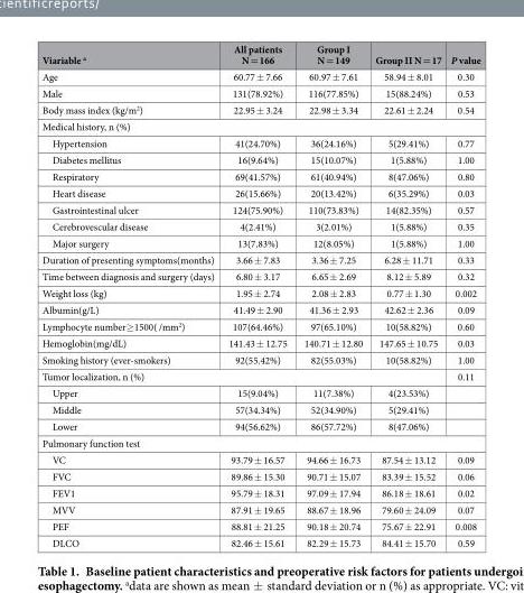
<table><thead><tr><td>Viariable a</td><td>All patients N = 166</td><td>Group I N = 149</td><td>Group II N = 17</td><td>P value</td></tr></thead><tbody><tr><td>Age</td><td>60.77 ± 7.66</td><td>60.97 ± 7.61</td><td>58.94 ± 8.01</td><td>0.30</td></tr><tr><td>Male</td><td>131(78.92%)</td><td>116(77.85%)</td><td>15(88.24%)</td><td>0.53</td></tr><tr><td>Body mass index (kg/m<sup>2</sup>)</td><td>22.95 ± 3.24</td><td>22.98 ± 3.34</td><td>22.61 ± 2.24</td><td>0.54</td></tr><tr><td colspan="5">Medical history, n (%)</td></tr><tr><td>Hypertension</td><td>41(24.70%)</td><td>36(24.16%)</td><td>5(29.41%)</td><td>0.77</td></tr><tr><td>Diabetes mellitus</td><td>16(9.64%)</td><td>15(10.07%)</td><td>1(5.88%)</td><td>1.00</td></tr><tr><td>Respiratory</td><td>69(41.57%)</td><td>61(40.94%)</td><td>8(47.06%)</td><td>0.80</td></tr><tr><td>Heart disease</td><td>26(15.66%)</td><td>20(13.42%)</td><td>6(35.29%)</td><td>0.03</td></tr><tr><td>Gastrointestinal ulcer</td><td>124(75.90%)</td><td>110(73.83%)</td><td>14(82.35%)</td><td>0.57</td></tr><tr><td>Cerebrovescular disease</td><td>4(2.41%)</td><td>3(2.01%)</td><td>1(5.88%)</td><td>0.35</td></tr><tr><td>Major surgery</td><td>13(7.83%)</td><td>12(8.05%)</td><td>1(5.88%)</td><td>1.00</td></tr><tr><td>Duration of presenting symptoms(months)</td><td>3.66 ± 7.83</td><td>3.36 ± 7.25</td><td>6.28 ± 11.71</td><td>0.33</td></tr><tr><td>Time between diagnosis and surgery (days)</td><td>6.80 ± 3.17</td><td>6.65 ± 2.69</td><td>8.12 ± 5.89</td><td>0.32</td></tr><tr><td>Weight loss (kg)</td><td>1.95 ± 2.74</td><td>2.08 ± 2.83</td><td>0.77 ± 1.30</td><td>0.002</td></tr><tr><td>Albumin(g/L)</td><td>41.49 ± 2.90</td><td>41.36 ± 2.93</td><td>42.62 ± 2.36</td><td>0.09</td></tr><tr><td>Lymphocyte number≥ 1500( /mm<sup>2</sup>)</td><td>107(64.46%)</td><td>97(65.10%)</td><td>10(58.82%)</td><td>0.60</td></tr><tr><td>Hemoglobin(mg/dL)</td><td>141.43 ± 12.75</td><td>140.71 ± 12.80</td><td>147.65 ± 10.75</td><td>0.03</td></tr><tr><td>Smoking history (ever-smokers)</td><td>92(55.42%)</td><td>82(55.03%)</td><td>10(58.82%)</td><td>1.00</td></tr><tr><td colspan="4">Tumor localization, n (%)</td><td>0.11</td></tr><tr><td>Upper</td><td>15(9.04%)</td><td>11(7.38%)</td><td>4(23.53%)</td><td></td></tr><tr><td>Middle</td><td>57(34.34%)</td><td>52(34.90%)</td><td>5(29.41%)</td><td></td></tr><tr><td>Lower</td><td>94(56.62%)</td><td>86(57.72%)</td><td>8(47.06%)</td><td></td></tr><tr><td colspan="5">Pulmonary function test</td></tr><tr><td>VC</td><td>93.79 ± 16.57</td><td>94.66 ± 16.73</td><td>87.54 ± 13.12</td><td>0.09</td></tr><tr><td>FVC</td><td>89.86 ± 15.30</td><td>90.71 ± 15.07</td><td>83.39 ± 15.52</td><td>0.06</td></tr><tr><td>FEV1</td><td>95.79 ± 18.31</td><td>97.09 ± 17.94</td><td>86.18 ± 18.61</td><td>0.02</td></tr><tr><td>MVV</td><td>87.91 ± 19.65</td><td>88.67 ± 18.96</td><td>79.60 ± 24.09</td><td>0.07</td></tr><tr><td>PEF</td><td>88.81 ± 21.25</td><td>90.18 ± 20.74</td><td>75.67 ± 22.91</td><td>0.008</td></tr><tr><td>DLCO</td><td>82.46 ± 15.61</td><td>82.29 ± 15.73</td><td>84.41 ± 15.70</td><td>0.59</td></tr></tbody></table>